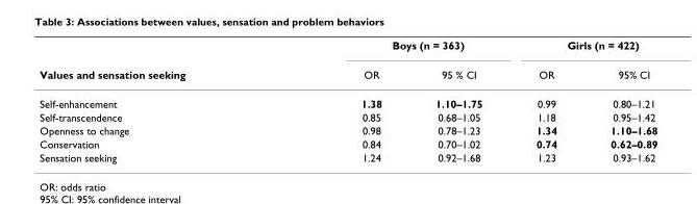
<table><thead><tr><td rowspan="2">Values and sensation seeking</td><td colspan="2">Boys (n = 363)</td><td colspan="2">Girls (n = 422)</td></tr><tr><td>OR</td><td>95 % CI</td><td>OR</td><td>95% CI</td></tr></thead><tbody><tr><td>Self-enhancement</td><td>1.38</td><td>1.10–1.75</td><td>0.99</td><td>0.80–1.21</td></tr><tr><td>Self-transcendence</td><td>0.85</td><td>0.68–1.05</td><td>1.18</td><td>0.95–1.42</td></tr><tr><td>Openness to change</td><td>0.98</td><td>0.78–1.23</td><td>1.34</td><td>1.10–1.68</td></tr><tr><td>Conservation</td><td>0.84</td><td>0.70–1.02</td><td>0.74</td><td>0.62–0.89</td></tr><tr><td>Sensation seeking</td><td>1.24</td><td>0.92–1.68</td><td>1.23</td><td>0.93–1.62</td></tr></tbody></table>